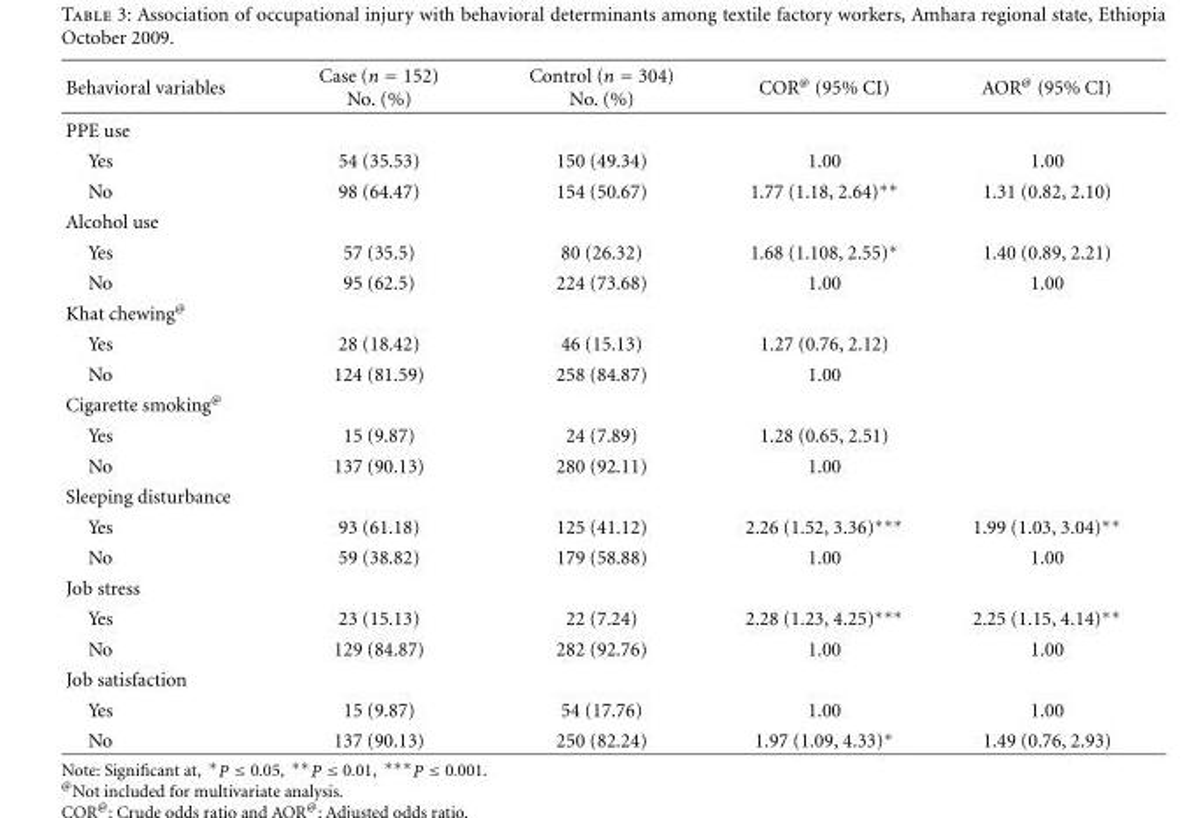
<table><thead><tr><td>Behavioral variables</td><td>Case (n = 152) No. (%)</td><td>Control (n = 304) No. (%)</td><td>COR<sup>@</sup> (95% CI)</td><td>AOR<sup>@</sup> (95% CI)</td></tr></thead><tbody><tr><td colspan="5">PPE use</td></tr><tr><td>Yes</td><td>54 (35.53)</td><td>150 (49.34)</td><td>1.00</td><td>1.00</td></tr><tr><td>No</td><td>98 (64.47)</td><td>154 (50.67)</td><td>1.77 (1.18, 2.64)∗∗</td><td>1.31 (0.82, 2.10)</td></tr><tr><td colspan="5">Alcohol use</td></tr><tr><td>Yes</td><td>57 (35.5)</td><td>80 (26.32)</td><td>1.68 (1.108, 2.55)∗</td><td>1.40 (0.89, 2.21)</td></tr><tr><td>No</td><td>95 (62.5)</td><td>224 (73.68)</td><td>1.00</td><td>1.00</td></tr><tr><td colspan="5">Khat chewing<sup>@</sup></td></tr><tr><td>Yes</td><td>28 (18.42)</td><td>46 (15.13)</td><td>1.27 (0.76, 2.12)</td><td></td></tr><tr><td>No</td><td>124 (81.59)</td><td>258 (84.87)</td><td>1.00</td><td></td></tr><tr><td colspan="5">Cigarette smoking<sup>@</sup></td></tr><tr><td>Yes</td><td>15 (9.87)</td><td>24 (7.89)</td><td>1.28 (0.65, 2.51)</td><td></td></tr><tr><td>No</td><td>137 (90.13)</td><td>280 (92.11)</td><td>1.00</td><td></td></tr><tr><td colspan="5">Sleeping disturbance</td></tr><tr><td>Yes</td><td>93 (61.18)</td><td>125 (41.12)</td><td>2.26 (1.52, 3.36)∗∗∗</td><td>1.99 (1.03, 3.04)∗∗</td></tr><tr><td>No</td><td>59 (38.82)</td><td>179 (58.88)</td><td>1.00</td><td>1.00</td></tr><tr><td colspan="5">Job stress</td></tr><tr><td>Yes</td><td>23 (15.13)</td><td>22 (7.24)</td><td>2.28 (1.23, 4.25)∗∗∗</td><td>2.25 (1.15, 4.14)∗∗</td></tr><tr><td>No</td><td>129 (84.87)</td><td>282 (92.76)</td><td>1.00</td><td>1.00</td></tr><tr><td colspan="5">Job satisfaction</td></tr><tr><td>Yes</td><td>15 (9.87)</td><td>54 (17.76)</td><td>1.00</td><td>1.00</td></tr><tr><td>No</td><td>137 (90.13)</td><td>250 (82.24)</td><td>1.97 (1.09, 4.33)∗</td><td>1.49 (0.76, 2.93)</td></tr></tbody></table>